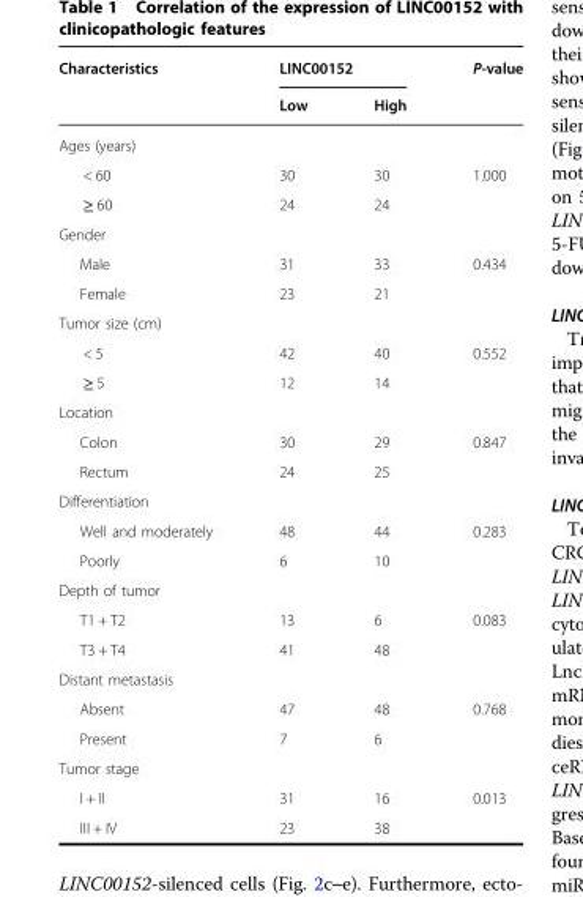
<table><thead><tr><td rowspan="2">Characteristics</td><td colspan="2">LINC00152</td><td rowspan="2">P-value</td></tr><tr><td>Low</td><td>High</td></tr></thead><tbody><tr><td colspan="4">Ages (years)</td></tr><tr><td>&lt; 60</td><td>30</td><td>30</td><td>1.000</td></tr><tr><td>≥ 60</td><td>24</td><td>24</td><td></td></tr><tr><td colspan="4">Gender</td></tr><tr><td>Male</td><td>31</td><td>33</td><td>0.434</td></tr><tr><td>Female</td><td>23</td><td>21</td><td></td></tr><tr><td colspan="4">Tumor size (cm)</td></tr><tr><td>&lt; 5</td><td>42</td><td>40</td><td>0.552</td></tr><tr><td>≥ 5</td><td>12</td><td>14</td><td></td></tr><tr><td colspan="4">Location</td></tr><tr><td>Colon</td><td>30</td><td>29</td><td>0.847</td></tr><tr><td>Rectum</td><td>24</td><td>25</td><td></td></tr><tr><td colspan="4">Differentiation</td></tr><tr><td>Well and moderately</td><td>48</td><td>44</td><td>0.283</td></tr><tr><td>Poorly</td><td>6</td><td>10</td><td></td></tr><tr><td colspan="4">Depth of tumor</td></tr><tr><td>T1 + T2</td><td>13</td><td>6</td><td>0.083</td></tr><tr><td>T3 + T4</td><td>41</td><td>48</td><td></td></tr><tr><td colspan="4">Distant metastasis</td></tr><tr><td>Absent</td><td>47</td><td>48</td><td>0.768</td></tr><tr><td>Present</td><td>7</td><td>6</td><td></td></tr><tr><td colspan="4">Tumor stage</td></tr><tr><td>I + II</td><td>31</td><td>16</td><td>0.013</td></tr><tr><td>III + IV</td><td>23</td><td>38</td><td></td></tr></tbody></table>